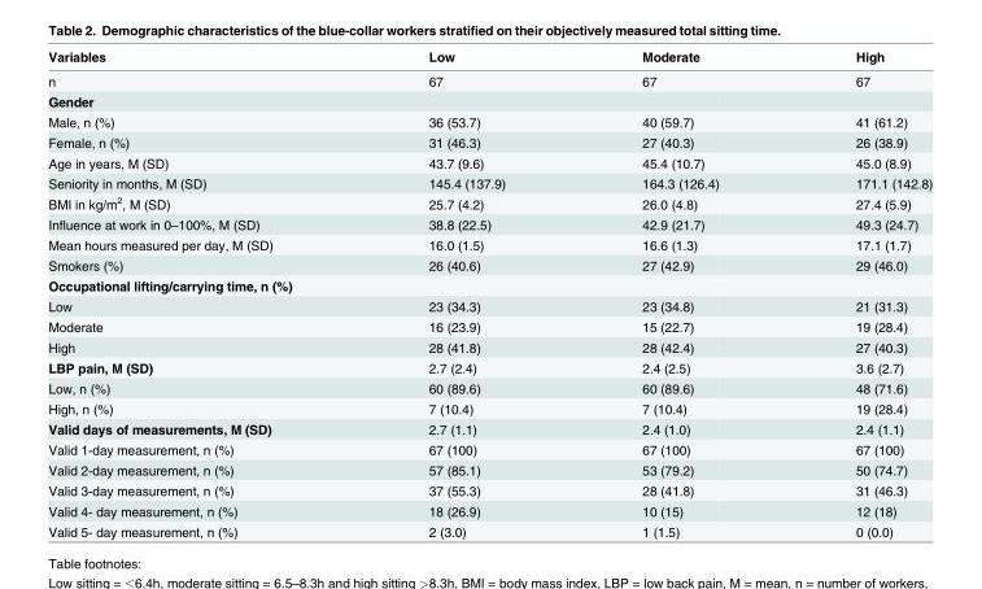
<table><thead><tr><td>Variables</td><td>Low</td><td>Moderate</td><td>High</td></tr></thead><tbody><tr><td>n</td><td>67</td><td>67</td><td>67</td></tr><tr><td colspan="4">Gender</td></tr><tr><td>Male, n (%)</td><td>36 (53.7)</td><td>40 (59.7)</td><td>41 (61.2)</td></tr><tr><td>Female, n (%)</td><td>31 (46.3)</td><td>27 (40.3)</td><td>26 (38.9)</td></tr><tr><td>Age in years, M (SD)</td><td>43.7 (9.6)</td><td>45.4 (10.7)</td><td>45.0 (8.9)</td></tr><tr><td>Seniority in months, M (SD)</td><td>145.4 (137.9)</td><td>164.3 (126.4)</td><td>171.1 (142.8)</td></tr><tr><td>BMI in kg/m<sup>2</sup>, M (SD)</td><td>25.7 (4.2)</td><td>26.0 (4.8)</td><td>27.4 (5.9)</td></tr><tr><td>Influence at work in 0–100%, M (SD)</td><td>38.8 (22.5)</td><td>42.9 (21.7)</td><td>49.3 (24.7)</td></tr><tr><td>Mean hours measured per day, M (SD)</td><td>16.0 (1.5)</td><td>16.6 (1.3)</td><td>17.1 (1.7)</td></tr><tr><td>Smokers (%)</td><td>26 (40.6)</td><td>27 (42.9)</td><td>29 (46.0)</td></tr><tr><td colspan="4">Occupational lifting/carrying time, n (%)</td></tr><tr><td>Low</td><td>23 (34.3)</td><td>23 (34.8)</td><td>21 (31.3)</td></tr><tr><td>Moderate</td><td>16 (23.9)</td><td>15 (22.7)</td><td>19 (28.4)</td></tr><tr><td>High</td><td>28 (41.8)</td><td>28 (42.4)</td><td>27 (40.3)</td></tr><tr><td>LBP pain, M (SD)</td><td>2.7 (2.4)</td><td>2.4 (2.5)</td><td>3.6 (2.7)</td></tr><tr><td>Low, n (%)</td><td>60 (89.6)</td><td>60 (89.6)</td><td>48 (71.6)</td></tr><tr><td>High, n (%)</td><td>7 (10.4)</td><td>7 (10.4)</td><td>19 (28.4)</td></tr><tr><td>Valid days of measurements, M (SD)</td><td>2.7 (1.1)</td><td>2.4 (1.0)</td><td>2.4 (1.1)</td></tr><tr><td>Valid 1-day measurement, n (%)</td><td>67 (100)</td><td>67 (100)</td><td>67 (100)</td></tr><tr><td>Valid 2-day measurement, n (%)</td><td>57 (85.1)</td><td>53 (79.2)</td><td>50 (74.7)</td></tr><tr><td>Valid 3-day measurement, n (%)</td><td>37 (55.3)</td><td>28 (41.8)</td><td>31 (46.3)</td></tr><tr><td>Valid 4- day measurement, n (%)</td><td>18 (26.9)</td><td>10 (15)</td><td>12 (18)</td></tr><tr><td>Valid 5- day measurement, n (%)</td><td>2 (3.0)</td><td>1 (1.5)</td><td>0 (0.0)</td></tr></tbody></table>